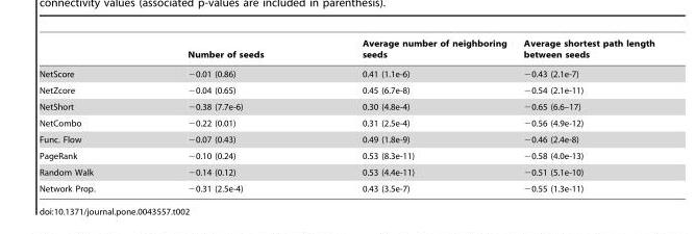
<table><thead><tr><td></td><td>Number of seeds</td><td>Average number of neighboring seeds</td><td>Average shortest path length between seeds</td></tr></thead><tbody><tr><td>NetScore</td><td>−0.01 (0.86)</td><td>0.41 (1.1e-6)</td><td>−0.43 (2.1e-7)</td></tr><tr><td>NetZcore</td><td>−0.04 (0.65)</td><td>0.45 (6.7e-8)</td><td>−0.54 (2.1e-11)</td></tr><tr><td>NetShort</td><td>−0.38 (7.7e-6)</td><td>0.30 (4.8e-4)</td><td>−0.65 (6.6–17)</td></tr><tr><td>NetCombo</td><td>−0.22 (0.01)</td><td>0.31 (2.5e-4)</td><td>−0.56 (4.9e-12)</td></tr><tr><td>Func. Flow</td><td>−0.07 (0.43)</td><td>0.49 (1.8e-9)</td><td>−0.46 (2.4e-8)</td></tr><tr><td>PageRank</td><td>−0.10 (0.24)</td><td>0.53 (8.3e-11)</td><td>−0.58 (4.0e-13)</td></tr><tr><td>Random Walk</td><td>−0.14 (0.12)</td><td>0.53 (4.4e-11)</td><td>−0.51 (5.1e-10)</td></tr><tr><td>Network Prop.</td><td>−0.31 (2.5e-4)</td><td>0.43 (3.5e-7)</td><td>−0.55 (1.3e-11)</td></tr></tbody></table>